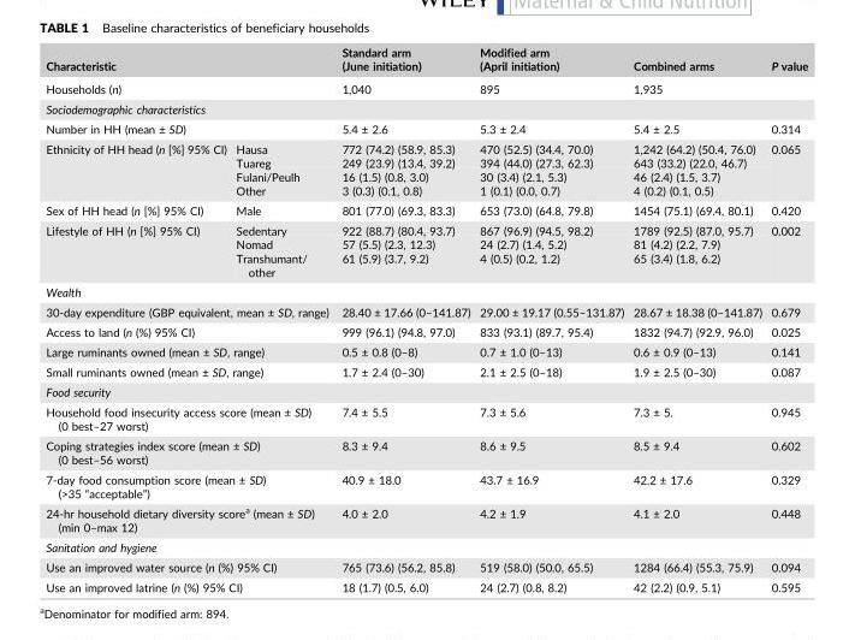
<table><thead><tr><td colspan="2">Characteristic</td><td>Standard arm (June initiation)</td><td>Modified arm (April initiation)</td><td>Combined arms</td><td>P value</td></tr></thead><tbody><tr><td colspan="2">Households (n)</td><td>1,040</td><td>895</td><td>1,935</td><td></td></tr><tr><td colspan="6">Sociodemographic characteristics</td></tr><tr><td colspan="2">Number in HH (mean ± SD)</td><td>5.4 ± 2.6</td><td>5.3 ± 2.4</td><td>5.4 ± 2.5</td><td>0.314</td></tr><tr><td rowspan="4">Ethnicity of HH head (n [%] 95% CI)</td><td>Hausa</td><td>772 (74.2) (58.9, 85.3)</td><td>470 (52.5) (34.4, 70.0)</td><td>1,242 (64.2) (50.4, 76.0)</td><td rowspan="4">0.065</td></tr><tr><td>Tuareg</td><td>249 (23.9) (13.4, 39.2)</td><td>394 (44.0) (27.3, 62.3)</td><td>643 (33.2) (22.0, 46.7)</td></tr><tr><td>Fulani/Peulh</td><td>16 (1.5) (0.8, 3.0)</td><td>30 (3.4) (2.1, 5.3)</td><td>46 (2.4) (1.5, 3.7)</td></tr><tr><td>Other</td><td>3 (0.3) (0.1, 0.8)</td><td>1 (0.1) (0.0, 0.7)</td><td>4 (0.2) (0.1, 0.5)</td></tr><tr><td>Sex of HH head (n [%] 95% CI)</td><td>Male</td><td>801 (77.0) (69.3, 83.3)</td><td>653 (73.0) (64.8, 79.8)</td><td>1454 (75.1) (69.4, 80.1)</td><td>0.420</td></tr><tr><td rowspan="3">Lifestyle of HH (n [%] 95% CI)</td><td>Sedentary</td><td>922 (88.7) (80.4, 93.7)</td><td>867 (96.9) (94.5, 98.2)</td><td>1789 (92.5) (87.0, 95.7)</td><td rowspan="3">0.002</td></tr><tr><td>Nomad</td><td>57 (5.5) (2.3, 12.3)</td><td>24 (2.7) (1.4, 5.2)</td><td>81 (4.2) (2.2, 7.9)</td></tr><tr><td>Transhumant/ other</td><td>61 (5.9) (3.7, 9.2)</td><td>4 (0.5) (0.2, 1.2)</td><td>65 (3.4) (1.8, 6.2)</td></tr><tr><td colspan="6">Wealth</td></tr><tr><td colspan="2">30‐day expenditure (GBP equivalent, mean ± SD, range)</td><td>28.40 ± 17.66 (0–141.87)</td><td>29.00 ± 19.17 (0.55–131.87)</td><td>28.67 ± 18.38 (0–141.87)</td><td>0.679</td></tr><tr><td colspan="2">Access to land (n (%) 95% CI)</td><td>999 (96.1) (94.8, 97.0)</td><td>833 (93.1) (89.7, 95.4)</td><td>1832 (94.7) (92.9, 96.0)</td><td>0.025</td></tr><tr><td colspan="2">Large ruminants owned (mean ± SD, range)</td><td>0.5 ± 0.8 (0–8)</td><td>0.7 ± 1.0 (0–13)</td><td>0.6 ± 0.9 (0–13)</td><td>0.141</td></tr><tr><td colspan="2">Small ruminants owned (mean ± SD, range)</td><td>1.7 ± 2.4 (0–30)</td><td>2.1 ± 2.5 (0–18)</td><td>1.9 ± 2.5 (0–30)</td><td>0.087</td></tr><tr><td colspan="6">Food security</td></tr><tr><td colspan="2">Household food insecurity access score (mean ± SD) (0 best–27 worst)</td><td>7.4 ± 5.5</td><td>7.3 ± 5.6</td><td>7.3 ± 5.</td><td>0.945</td></tr><tr><td colspan="2">Coping strategies index score (mean ± SD) (0 best–56 worst)</td><td>8.3 ± 9.4</td><td>8.6 ± 9.5</td><td>8.5 ± 9.4</td><td>0.602</td></tr><tr><td colspan="2">7‐day food consumption score (mean ± SD) (&gt;35 “acceptable”)</td><td>40.9 ± 18.0</td><td>43.7 ± 16.9</td><td>42.2 ± 17.6</td><td>0.329</td></tr><tr><td colspan="2">24‐hr household dietary diversity score<sup>a</sup> (mean ± SD) (min 0–max 12)</td><td>4.0 ± 2.0</td><td>4.2 ± 1.9</td><td>4.1 ± 2.0</td><td>0.448</td></tr><tr><td colspan="6">Sanitation and hygiene</td></tr><tr><td colspan="2">Use an improved water source (n (%) 95% CI)</td><td>765 (73.6) (56.2, 85.8)</td><td>519 (58.0) (50.0, 65.5)</td><td>1284 (66.4) (55.3, 75.9)</td><td>0.094</td></tr><tr><td colspan="2">Use an improved latrine (n (%) 95% CI)</td><td>18 (1.7) (0.5, 6.0)</td><td>24 (2.7) (0.8, 8.2)</td><td>42 (2.2) (0.9, 5.1)</td><td>0.595</td></tr></tbody></table>